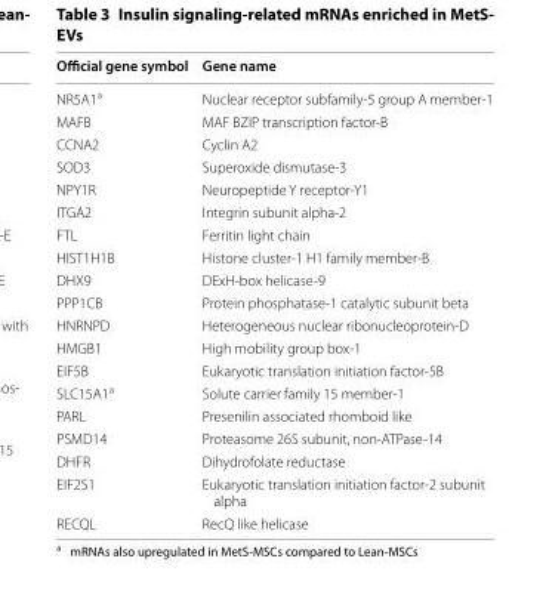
<table><thead><tr><td>Official gene symbol</td><td>Gene name</td></tr></thead><tbody><tr><td>NR5A1<sup>a</sup></td><td>Nuclear receptor subfamily‑5 group A member‑1</td></tr><tr><td>MAFB</td><td>MAF BZIP transcription factor‑B</td></tr><tr><td>CCNA2</td><td>Cyclin A2</td></tr><tr><td>SOD3</td><td>Superoxide dismutase‑3</td></tr><tr><td>NPY1R</td><td>Neuropeptide Y receptor‑Y1</td></tr><tr><td>ITGA2</td><td>Integrin subunit alpha‑2</td></tr><tr><td>FTL</td><td>Ferritin light chain</td></tr><tr><td>HIST1H1B</td><td>Histone cluster‑1 H1 family member‑B</td></tr><tr><td>DHX9</td><td>DExH‑box helicase‑9</td></tr><tr><td>PPP1CB</td><td>Protein phosphatase‑1 catalytic subunit beta</td></tr><tr><td>HNRNPD</td><td>Heterogeneous nuclear ribonucleoprotein‑D</td></tr><tr><td>HMGB1</td><td>High mobility group box‑1</td></tr><tr><td>EIF5B</td><td>Eukaryotic translation initiation factor‑5B</td></tr><tr><td>SLC15A1<sup>a</sup></td><td>Solute carrier family 15 member‑1</td></tr><tr><td>PARL</td><td>Presenilin associated rhomboid like</td></tr><tr><td>PSMD14</td><td>Proteasome 26S subunit, non‑ATPase‑14</td></tr><tr><td>DHFR</td><td>Dihydrofolate reductase</td></tr><tr><td>EIF2S1</td><td>Eukaryotic translation initiation factor‑2 subunit alpha</td></tr><tr><td>RECQL</td><td>RecQ like helicase</td></tr></tbody></table>